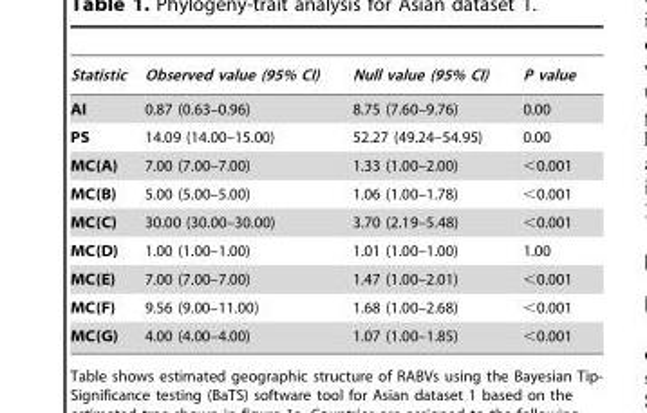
<table><thead><tr><td>Statistic</td><td>Observed value (95% CI)</td><td>Null value (95% CI)</td><td>P value</td></tr></thead><tbody><tr><td>AI</td><td>0.87 (0.63–0.96)</td><td>8.75 (7.60–9.76)</td><td>0.00</td></tr><tr><td>PS</td><td>14.09 (14.00–15.00)</td><td>52.27 (49.24–54.95)</td><td>0.00</td></tr><tr><td>MC(A)</td><td>7.00 (7.00–7.00)</td><td>1.33 (1.00–2.00)</td><td>&lt;0.001</td></tr><tr><td>MC(B)</td><td>5.00 (5.00–5.00)</td><td>1.06 (1.00–1.78)</td><td>&lt;0.001</td></tr><tr><td>MC(C)</td><td>30.00 (30.00–30.00)</td><td>3.70 (2.19–5.48)</td><td>&lt;0.001</td></tr><tr><td>MC(D)</td><td>1.00 (1.00–1.00)</td><td>1.01 (1.00–1.00)</td><td>1.00</td></tr><tr><td>MC(E)</td><td>7.00 (7.00–7.00)</td><td>1.47 (1.00–2.01)</td><td>&lt;0.001</td></tr><tr><td>MC(F)</td><td>9.56 (9.00–11.00)</td><td>1.68 (1.00–2.68)</td><td>&lt;0.001</td></tr><tr><td>MC(G)</td><td>4.00 (4.00–4.00)</td><td>1.07 (1.00–1.85)</td><td>&lt;0.001</td></tr></tbody></table>